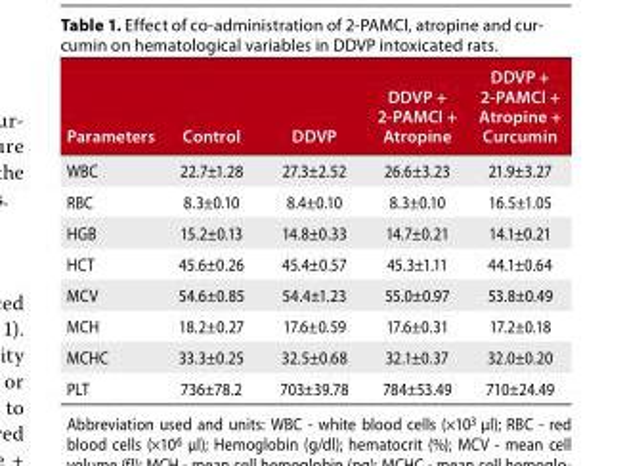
<table><thead><tr><td>Parameters</td><td>Control</td><td>DDVP</td><td>DDVP + 2-PAMCl + Atropine</td><td>DDVP + 2-PAMCl + Atropine + Curcumin</td></tr></thead><tbody><tr><td>WBC</td><td>22.7±1.28</td><td>27.3±2.52</td><td>26.6±3.23</td><td>21.9±3.27</td></tr><tr><td>RBC</td><td>8.3±0.10</td><td>8.4±0.10</td><td>8.3±0.10</td><td>16.5±1.05</td></tr><tr><td>HGB</td><td>15.2±0.13</td><td>14.8±0.33</td><td>14.7±0.21</td><td>14.1±0.21</td></tr><tr><td>HCT</td><td>45.6±0.26</td><td>45.4±0.57</td><td>45.3±1.11</td><td>44.1±0.64</td></tr><tr><td>MCV</td><td>54.6±0.85</td><td>54.4±1.23</td><td>55.0±0.97</td><td>53.8±0.49</td></tr><tr><td>MCH</td><td>18.2±0.27</td><td>17.6±0.59</td><td>17.6±0.31</td><td>17.2±0.18</td></tr><tr><td>MCHC</td><td>33.3±0.25</td><td>32.5±0.68</td><td>32.1±0.37</td><td>32.0±0.20</td></tr><tr><td>PLT</td><td>736±78.2</td><td>703±39.78</td><td>784±53.49</td><td>710±24.49</td></tr></tbody></table>